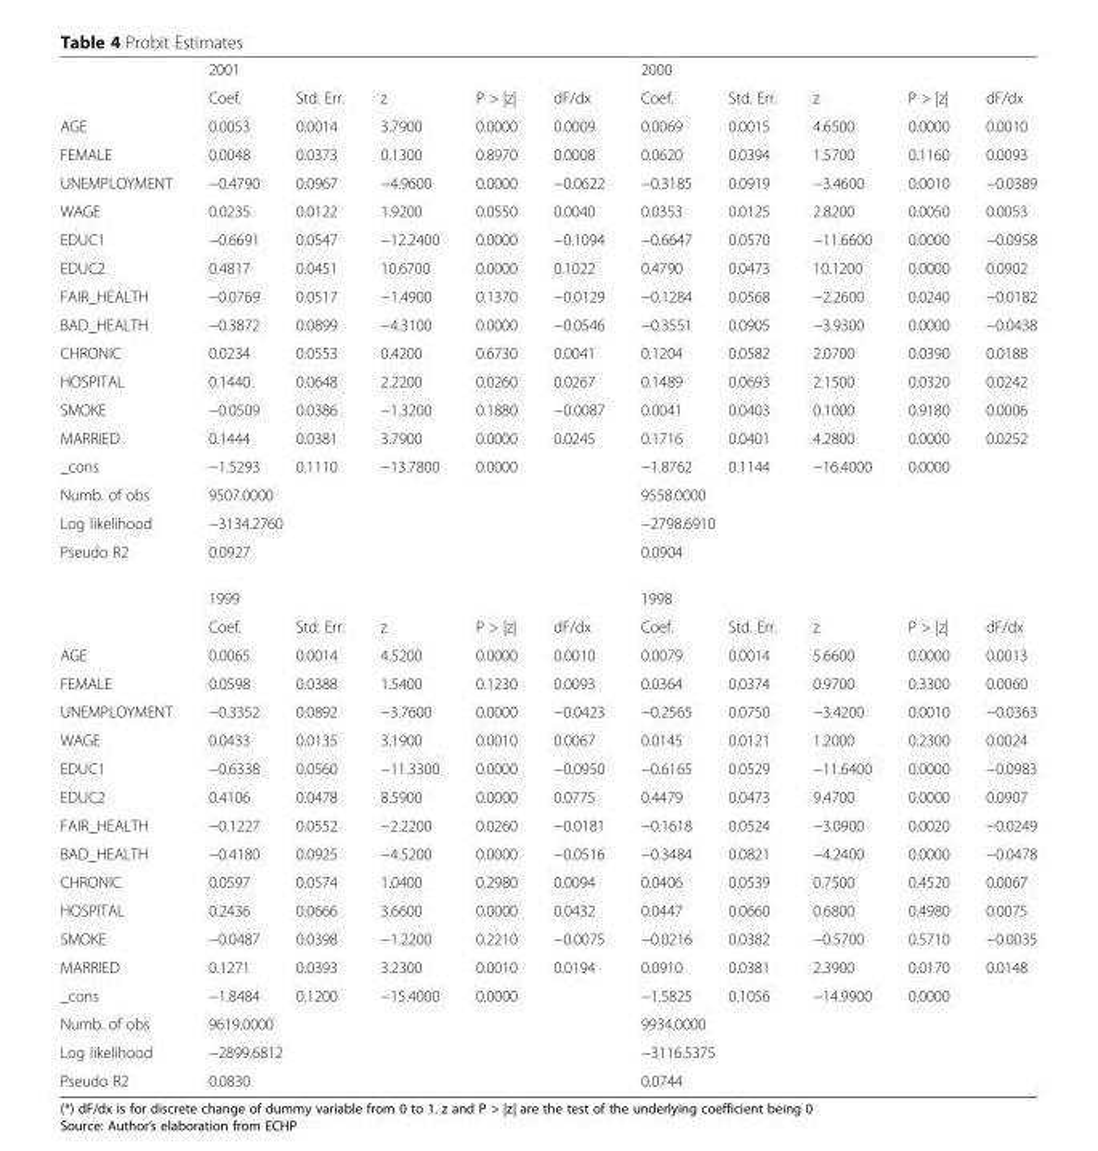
<table><thead><tr><td rowspan="2"></td><td colspan="5">2001</td><td colspan="5">2000</td></tr><tr><td>Coef.</td><td>Std. Err.</td><td>z</td><td>P &gt; |z|</td><td>dF/dx</td><td>Coef.</td><td>Std. Err.</td><td>z</td><td>P &gt; |z|</td><td>dF/dx</td></tr></thead><tbody><tr><td>AGE</td><td>0.0053</td><td>0.0014</td><td>3.7900</td><td>0.0000</td><td>0.0009</td><td>0.0069</td><td>0.0015</td><td>4.6500</td><td>0.0000</td><td>0.0010</td></tr><tr><td>FEMALE</td><td>0.0048</td><td>0.0373</td><td>0.1300</td><td>0.8970</td><td>0.0008</td><td>0.0620</td><td>0.0394</td><td>1.5700</td><td>0.1160</td><td>0.0093</td></tr><tr><td>UNEMPLOYMENT</td><td>−0.4790</td><td>0.0967</td><td>−4.9600</td><td>0.0000</td><td>−0.0622</td><td>−0.3185</td><td>0.0919</td><td>−3.4600</td><td>0.0010</td><td>−0.0389</td></tr><tr><td>WAGE</td><td>0.0235</td><td>0.0122</td><td>1.9200</td><td>0.0550</td><td>0.0040</td><td>0.0353</td><td>0.0125</td><td>2.8200</td><td>0.0050</td><td>0.0053</td></tr><tr><td>EDUC1</td><td>−0.6691</td><td>0.0547</td><td>−12.2400</td><td>0.0000</td><td>−0.1094</td><td>−0.6647</td><td>0.0570</td><td>−11.6600</td><td>0.0000</td><td>−0.0958</td></tr><tr><td>EDUC2</td><td>0.4817</td><td>0.0451</td><td>10.6700</td><td>0.0000</td><td>0.1022</td><td>0.4790</td><td>0.0473</td><td>10.1200</td><td>0.0000</td><td>0.0902</td></tr><tr><td>FAIR_HEALTH</td><td>−0.0769</td><td>0.0517</td><td>−1.4900</td><td>0.1370</td><td>−0.0129</td><td>−0.1284</td><td>0.0568</td><td>−2.2600</td><td>0.0240</td><td>−0.0182</td></tr><tr><td>BAD_HEALTH</td><td>−0.3872</td><td>0.0899</td><td>−4.3100</td><td>0.0000</td><td>−0.0546</td><td>−0.3551</td><td>0.0905</td><td>−3.9300</td><td>0.0000</td><td>−0.0438</td></tr><tr><td>CHRONIC</td><td>0.0234</td><td>0.0553</td><td>0.4200</td><td>0.6730</td><td>0.0041</td><td>0.1204</td><td>0.0582</td><td>2.0700</td><td>0.0390</td><td>0.0188</td></tr><tr><td>HOSPITAL</td><td>0.1440</td><td>0.0648</td><td>2.2200</td><td>0.0260</td><td>0.0267</td><td>0.1489</td><td>0.0693</td><td>2.1500</td><td>0.0320</td><td>0.0242</td></tr><tr><td>SMOKE</td><td>−0.0509</td><td>0.0386</td><td>−1.3200</td><td>0.1880</td><td>−0.0087</td><td>0.0041</td><td>0.0403</td><td>0.1000</td><td>0.9180</td><td>0.0006</td></tr><tr><td>MARRIED</td><td>0.1444</td><td>0.0381</td><td>3.7900</td><td>0.0000</td><td>0.0245</td><td>0.1716</td><td>0.0401</td><td>4.2800</td><td>0.0000</td><td>0.0252</td></tr><tr><td>_cons</td><td>−1.5293</td><td>0.1110</td><td>−13.7800</td><td>0.0000</td><td></td><td>−1.8762</td><td>0.1144</td><td>−16.4000</td><td>0.0000</td><td></td></tr><tr><td>Numb. of obs</td><td colspan="2">9507.0000</td><td></td><td></td><td></td><td colspan="2">9558.0000</td><td></td><td></td><td></td></tr><tr><td>Log likelihood</td><td colspan="2">−3134.2760</td><td></td><td></td><td></td><td colspan="2">−2798.6910</td><td></td><td></td><td></td></tr><tr><td rowspan="3">Pseudo R2</td><td colspan="2">0.0927</td><td></td><td></td><td></td><td colspan="2">0.0904</td><td></td><td></td><td></td></tr><tr><td colspan="5">1999</td><td colspan="5">1998</td></tr><tr><td>Coef.</td><td>Std. Err.</td><td>z</td><td>P &gt; |z|</td><td>dF/dx</td><td>Coef.</td><td>Std. Err.</td><td>z</td><td>P &gt; |z|</td><td>dF/dx</td></tr><tr><td>AGE</td><td>0.0065</td><td>0.0014</td><td>4.5200</td><td>0.0000</td><td>0.0010</td><td>0.0079</td><td>0.0014</td><td>5.6600</td><td>0.0000</td><td>0.0013</td></tr><tr><td>FEMALE</td><td>0.0598</td><td>0.0388</td><td>1.5400</td><td>0.1230</td><td>0.0093</td><td>0.0364</td><td>0.0374</td><td>0.9700</td><td>0.3300</td><td>0.0060</td></tr><tr><td>UNEMPLOYMENT</td><td>−0.3352</td><td>0.0892</td><td>−3.7600</td><td>0.0000</td><td>−0.0423</td><td>−0.2565</td><td>0.0750</td><td>−3.4200</td><td>0.0010</td><td>−0.0363</td></tr><tr><td>WAGE</td><td>0.0433</td><td>0.0135</td><td>3.1900</td><td>0.0010</td><td>0.0067</td><td>0.0145</td><td>0.0121</td><td>1.2000</td><td>0.2300</td><td>0.0024</td></tr><tr><td>EDUC1</td><td>−0.6338</td><td>0.0560</td><td>−11.3300</td><td>0.0000</td><td>−0.0950</td><td>−0.6165</td><td>0.0529</td><td>−11.6400</td><td>0.0000</td><td>−0.0983</td></tr><tr><td>EDUC2</td><td>0.4106</td><td>0.0478</td><td>8.5900</td><td>0.0000</td><td>0.0775</td><td>0.4479</td><td>0.0473</td><td>9.4700</td><td>0.0000</td><td>0.0907</td></tr><tr><td>FAIR_HEALTH</td><td>−0.1227</td><td>0.0552</td><td>−2.2200</td><td>0.0260</td><td>−0.0181</td><td>−0.1618</td><td>0.0524</td><td>−3.0900</td><td>0.0020</td><td>−0.0249</td></tr><tr><td>BAD_HEALTH</td><td>−0.4180</td><td>0.0925</td><td>−4.5200</td><td>0.0000</td><td>−0.0516</td><td>−0.3484</td><td>0.0821</td><td>−4.2400</td><td>0.0000</td><td>−0.0478</td></tr><tr><td>CHRONIC</td><td>0.0597</td><td>0.0574</td><td>1.0400</td><td>0.2980</td><td>0.0094</td><td>0.0406</td><td>0.0539</td><td>0.7500</td><td>0.4520</td><td>0.0067</td></tr><tr><td>HOSPITAL</td><td>0.2436</td><td>0.0666</td><td>3.6600</td><td>0.0000</td><td>0.0432</td><td>0.0447</td><td>0.0660</td><td>0.6800</td><td>0.4980</td><td>0.0075</td></tr><tr><td>SMOKE</td><td>−0.0487</td><td>0.0398</td><td>−1.2200</td><td>0.2210</td><td>−0.0075</td><td>−0.0216</td><td>0.0382</td><td>−0.5700</td><td>0.5710</td><td>−0.0035</td></tr><tr><td>MARRIED</td><td>0.1271</td><td>0.0393</td><td>3.2300</td><td>0.0010</td><td>0.0194</td><td>0.0910</td><td>0.0381</td><td>2.3900</td><td>0.0170</td><td>0.0148</td></tr><tr><td>_cons</td><td>−1.8484</td><td>0.1200</td><td>−15.4000</td><td>0.0000</td><td></td><td>−1.5825</td><td>0.1056</td><td>−14.9900</td><td>0.0000</td><td></td></tr><tr><td>Numb. of obs</td><td colspan="2">9619.0000</td><td></td><td></td><td></td><td colspan="2">9934.0000</td><td></td><td></td><td></td></tr><tr><td>Log likelihood</td><td colspan="2">−2899.6812</td><td></td><td></td><td></td><td colspan="2">−3116.5375</td><td></td><td></td><td></td></tr><tr><td>Pseudo R2</td><td colspan="2">0.0830</td><td></td><td></td><td></td><td colspan="2">0.0744</td><td></td><td></td><td></td></tr></tbody></table>